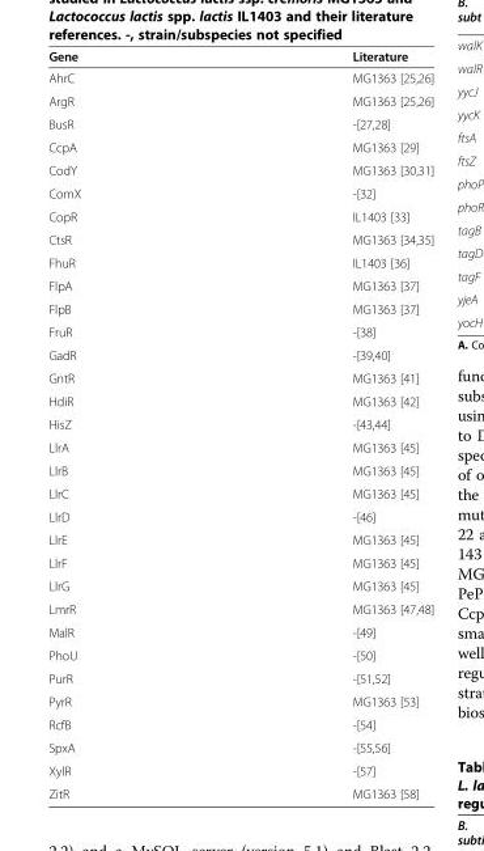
<table><thead><tr><td>Gene</td><td>Literature</td></tr></thead><tbody><tr><td>AhrC</td><td>MG1363 [25,26]</td></tr><tr><td>ArgR</td><td>MG1363 [25,26]</td></tr><tr><td>BusR</td><td>-[27,28]</td></tr><tr><td>CcpA</td><td>MG1363 [29]</td></tr><tr><td>CodY</td><td>MG1363 [30,31]</td></tr><tr><td>ComX</td><td>-[32]</td></tr><tr><td>CopR</td><td>IL1403 [33]</td></tr><tr><td>CtsR</td><td>MG1363 [34,35]</td></tr><tr><td>FhuR</td><td>IL1403 [36]</td></tr><tr><td>FlpA</td><td>MG1363 [37]</td></tr><tr><td>FlpB</td><td>MG1363 [37]</td></tr><tr><td>FruR</td><td>-[38]</td></tr><tr><td>GadR</td><td>-[39,40]</td></tr><tr><td>GntR</td><td>MG1363 [41]</td></tr><tr><td>HdiR</td><td>MG1363 [42]</td></tr><tr><td>HisZ</td><td>-[43,44]</td></tr><tr><td>LlrA</td><td>MG1363 [45]</td></tr><tr><td>LlrB</td><td>MG1363 [45]</td></tr><tr><td>LlrC</td><td>MG1363 [45]</td></tr><tr><td>LlrD</td><td>-[46]</td></tr><tr><td>LlrE</td><td>MG1363 [45]</td></tr><tr><td>LlrF</td><td>MG1363 [45]</td></tr><tr><td>LlrG</td><td>MG1363 [45]</td></tr><tr><td>LmrR</td><td>MG1363 [47,48]</td></tr><tr><td>MalR</td><td>-[49]</td></tr><tr><td>PhoU</td><td>-[50]</td></tr><tr><td>PurR</td><td>-[51,52]</td></tr><tr><td>PyrR</td><td>MG1363 [53]</td></tr><tr><td>RcfB</td><td>-[54]</td></tr><tr><td>SpxA</td><td>-[55,56]</td></tr><tr><td>XylR</td><td>-[57]</td></tr><tr><td>ZitR</td><td>MG1363 [58]</td></tr></tbody></table>